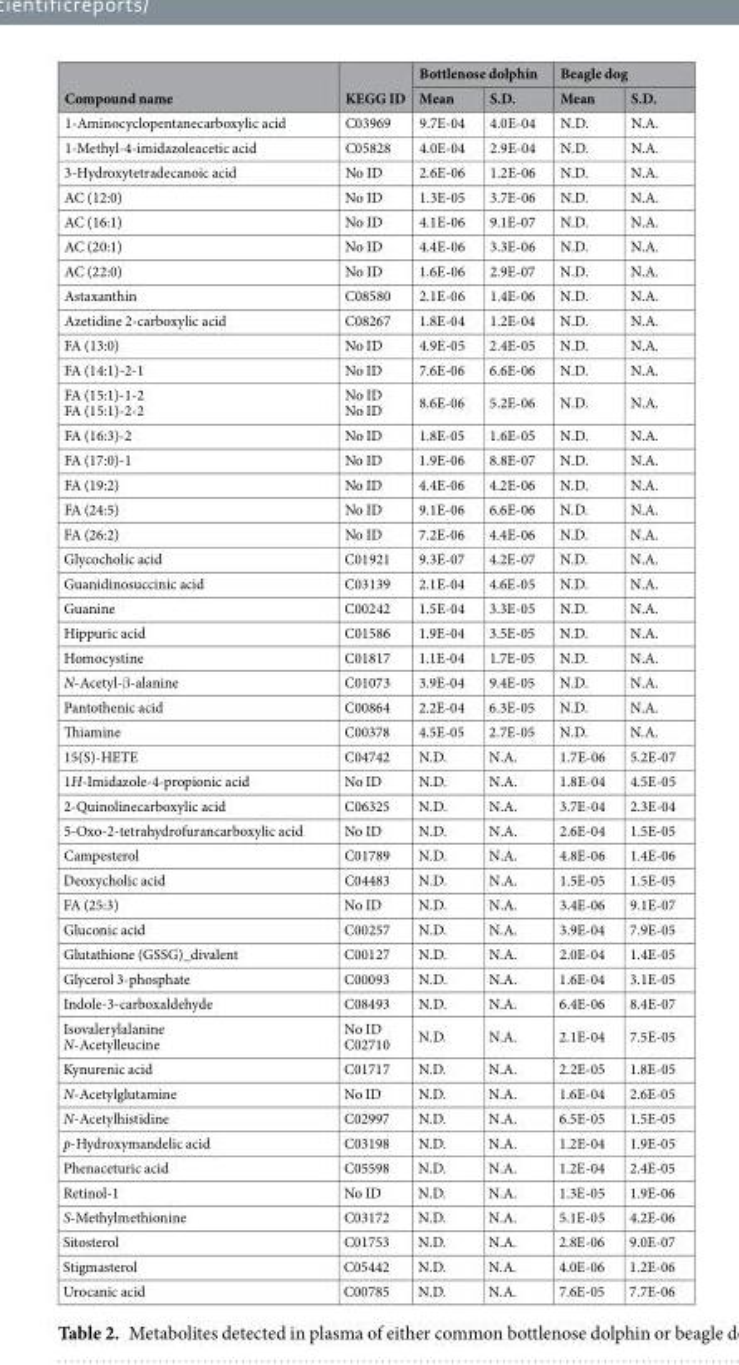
<table><thead><tr><td rowspan="2">Compound name</td><td rowspan="2">KEGG ID</td><td colspan="2">Bottlenose dolphin</td><td colspan="2">Beagle dog</td></tr><tr><td>Mean</td><td>S.D.</td><td>Mean</td><td>S.D.</td></tr></thead><tbody><tr><td>1-Aminocyclopentanecarboxylic acid</td><td>C03969</td><td>9.7E-04</td><td>4.0E-04</td><td>N.D.</td><td>N.A.</td></tr><tr><td>1-Methyl-4-imidazoleacetic acid</td><td>C05828</td><td>4.0E-04</td><td>2.9E-04</td><td>N.D.</td><td>N.A.</td></tr><tr><td>3-Hydroxytetradecanoic acid</td><td>No ID</td><td>2.6E-06</td><td>1.2E-06</td><td>N.D.</td><td>N.A.</td></tr><tr><td>AC (12:0)</td><td>No ID</td><td>1.3E-05</td><td>3.7E-06</td><td>N.D.</td><td>N.A.</td></tr><tr><td>AC (16:1)</td><td>No ID</td><td>4.1E-06</td><td>9.1E-07</td><td>N.D.</td><td>N.A.</td></tr><tr><td>AC (20:1)</td><td>No ID</td><td>4.4E-06</td><td>3.3E-06</td><td>N.D.</td><td>N.A.</td></tr><tr><td>AC (22:0)</td><td>No ID</td><td>1.6E-06</td><td>2.9E-07</td><td>N.D.</td><td>N.A.</td></tr><tr><td>Astaxanthin</td><td>C08580</td><td>2.1E-06</td><td>1.4E-06</td><td>N.D.</td><td>N.A.</td></tr><tr><td>Azetidine 2-carboxylic acid</td><td>C08267</td><td>1.8E-04</td><td>1.2E-04</td><td>N.D.</td><td>N.A.</td></tr><tr><td>FA (13:0)</td><td>No ID</td><td>4.9E-05</td><td>2.4E-05</td><td>N.D.</td><td>N.A.</td></tr><tr><td>FA (14:1)-2-1</td><td>No ID</td><td>7.6E-06</td><td>6.6E-06</td><td>N.D.</td><td>N.A.</td></tr><tr><td>FA (15:1)-1-2 FA (15:1)-2-2</td><td>No ID No ID</td><td>8.6E-06</td><td>5.2E-06</td><td>N.D.</td><td>N.A.</td></tr><tr><td>FA (16:3)-2</td><td>No ID</td><td>1.8E-05</td><td>1.6E-05</td><td>N.D.</td><td>N.A.</td></tr><tr><td>FA (17:0)-1</td><td>No ID</td><td>1.9E-06</td><td>8.8E-07</td><td>N.D.</td><td>N.A.</td></tr><tr><td>FA (19:2)</td><td>No ID</td><td>4.4E-06</td><td>4.2E-06</td><td>N.D.</td><td>N.A.</td></tr><tr><td>FA (24:5)</td><td>No ID</td><td>9.1E-06</td><td>6.6E-06</td><td>N.D.</td><td>N.A.</td></tr><tr><td>FA (26:2)</td><td>No ID</td><td>7.2E-06</td><td>4.4E-06</td><td>N.D.</td><td>N.A.</td></tr><tr><td>Glycocholic acid</td><td>C01921</td><td>9.3E-07</td><td>4.2E-07</td><td>N.D.</td><td>N.A.</td></tr><tr><td>Guanidinosuccinic acid</td><td>C03139</td><td>2.1E-04</td><td>4.6E-05</td><td>N.D.</td><td>N.A.</td></tr><tr><td>Guanine</td><td>C00242</td><td>1.5E-04</td><td>3.3E-05</td><td>N.D.</td><td>N.A.</td></tr><tr><td>Hippuric acid</td><td>C01586</td><td>1.9E-04</td><td>3.5E-05</td><td>N.D.</td><td>N.A.</td></tr><tr><td>Homocystine</td><td>C01817</td><td>1.1E-04</td><td>1.7E-05</td><td>N.D.</td><td>N.A.</td></tr><tr><td>N-Acetyl-β-alanine</td><td>C01073</td><td>3.9E-04</td><td>9.4E-05</td><td>N.D.</td><td>N.A.</td></tr><tr><td>Pantothenic acid</td><td>C00864</td><td>2.2E-04</td><td>6.3E-05</td><td>N.D.</td><td>N.A.</td></tr><tr><td>Thiamine</td><td>C00378</td><td>4.5E-05</td><td>2.7E-05</td><td>N.D.</td><td>N.A.</td></tr><tr><td>15(S)-HETE</td><td>C04742</td><td>N.D.</td><td>N.A.</td><td>1.7E-06</td><td>5.2E-07</td></tr><tr><td>1H-Imidazole-4-propionic acid</td><td>No ID</td><td>N.D.</td><td>N.A.</td><td>1.8E-04</td><td>4.5E-05</td></tr><tr><td>2-Quinolinecarboxylic acid</td><td>C06325</td><td>N.D.</td><td>N.A.</td><td>3.7E-04</td><td>2.3E-04</td></tr><tr><td>5-Oxo-2-tetrahydrofurancarboxylic acid</td><td>No ID</td><td>N.D.</td><td>N.A.</td><td>2.6E-04</td><td>1.5E-05</td></tr><tr><td>Campesterol</td><td>C01789</td><td>N.D.</td><td>N.A.</td><td>4.8E-06</td><td>1.4E-06</td></tr><tr><td>Deoxycholic acid</td><td>C04483</td><td>N.D.</td><td>N.A.</td><td>1.5E-05</td><td>1.5E-05</td></tr><tr><td>FA (25:3)</td><td>No ID</td><td>N.D.</td><td>N.A.</td><td>3.4E-06</td><td>9.1E-07</td></tr><tr><td>Gluconic acid</td><td>C00257</td><td>N.D.</td><td>N.A.</td><td>3.9E-04</td><td>7.9E-05</td></tr><tr><td>Glutathione (GSSG)_divalent</td><td>C00127</td><td>N.D.</td><td>N.A.</td><td>2.0E-04</td><td>1.4E-05</td></tr><tr><td>Glycerol 3-phosphate</td><td>C00093</td><td>N.D.</td><td>N.A.</td><td>1.6E-04</td><td>3.1E-05</td></tr><tr><td>Indole-3-carboxaldehyde</td><td>C08493</td><td>N.D.</td><td>N.A.</td><td>6.4E-06</td><td>8.4E-07</td></tr><tr><td>Isovalerylalanine N-Acetylleucine</td><td>No ID C02710</td><td>N.D.</td><td>N.A.</td><td>2.1E-04</td><td>7.5E-05</td></tr><tr><td>Kynurenic acid</td><td>C01717</td><td>N.D.</td><td>N.A.</td><td>2.2E-05</td><td>1.8E-05</td></tr><tr><td>N-Acetylglutamine</td><td>No ID</td><td>N.D.</td><td>N.A.</td><td>1.6E-04</td><td>2.6E-05</td></tr><tr><td>N-Acetylhistidine</td><td>C02997</td><td>N.D.</td><td>N.A.</td><td>6.5E-05</td><td>1.5E-05</td></tr><tr><td>p-Hydroxymandelic acid</td><td>C03198</td><td>N.D.</td><td>N.A.</td><td>1.2E-04</td><td>1.9E-05</td></tr><tr><td>Phenaceturic acid</td><td>C05598</td><td>N.D.</td><td>N.A.</td><td>1.2E-04</td><td>2.4E-05</td></tr><tr><td>Retinol-1</td><td>No ID</td><td>N.D.</td><td>N.A.</td><td>1.3E-05</td><td>1.9E-06</td></tr><tr><td>S-Methylmethionine</td><td>C03172</td><td>N.D.</td><td>N.A.</td><td>5.1E-05</td><td>4.2E-06</td></tr><tr><td>Sitosterol</td><td>C01753</td><td>N.D.</td><td>N.A.</td><td>2.8E-06</td><td>9.0E-07</td></tr><tr><td>Stigmasterol</td><td>C05442</td><td>N.D.</td><td>N.A.</td><td>4.0E-06</td><td>1.2E-06</td></tr><tr><td>Urocanic acid</td><td>C00785</td><td>N.D.</td><td>N.A.</td><td>7.6E-05</td><td>7.7E-06</td></tr></tbody></table>